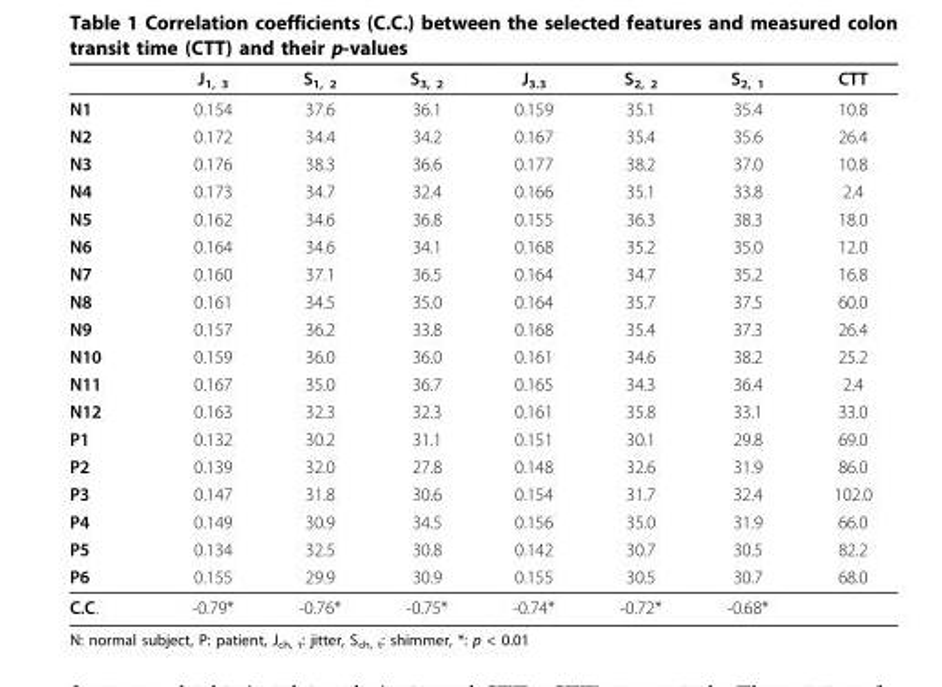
<table><thead><tr><td></td><td>J<sub>1, 3</sub></td><td>S<sub>1, 2</sub></td><td>S<sub>3, 2</sub></td><td>J<sub>3.3</sub></td><td>S<sub>2, 2</sub></td><td>S<sub>2, 1</sub></td><td>CTT</td></tr></thead><tbody><tr><td>N1</td><td>0.154</td><td>37.6</td><td>36.1</td><td>0.159</td><td>35.1</td><td>35.4</td><td>10.8</td></tr><tr><td>N2</td><td>0.172</td><td>34.4</td><td>34.2</td><td>0.167</td><td>35.4</td><td>35.6</td><td>26.4</td></tr><tr><td>N3</td><td>0.176</td><td>38.3</td><td>36.6</td><td>0.177</td><td>38.2</td><td>37.0</td><td>10.8</td></tr><tr><td>N4</td><td>0.173</td><td>34.7</td><td>32.4</td><td>0.166</td><td>35.1</td><td>33.8</td><td>2.4</td></tr><tr><td>N5</td><td>0.162</td><td>34.6</td><td>36.8</td><td>0.155</td><td>36.3</td><td>38.3</td><td>18.0</td></tr><tr><td>N6</td><td>0.164</td><td>34.6</td><td>34.1</td><td>0.168</td><td>35.2</td><td>35.0</td><td>12.0</td></tr><tr><td>N7</td><td>0.160</td><td>37.1</td><td>36.5</td><td>0.164</td><td>34.7</td><td>35.2</td><td>16.8</td></tr><tr><td>N8</td><td>0.161</td><td>34.5</td><td>35.0</td><td>0.164</td><td>35.7</td><td>37.5</td><td>60.0</td></tr><tr><td>N9</td><td>0.157</td><td>36.2</td><td>33.8</td><td>0.168</td><td>35.4</td><td>37.3</td><td>26.4</td></tr><tr><td>N10</td><td>0.159</td><td>36.0</td><td>36.0</td><td>0.161</td><td>34.6</td><td>38.2</td><td>25.2</td></tr><tr><td>N11</td><td>0.167</td><td>35.0</td><td>36.7</td><td>0.165</td><td>34.3</td><td>36.4</td><td>2.4</td></tr><tr><td>N12</td><td>0.163</td><td>32.3</td><td>32.3</td><td>0.161</td><td>35.8</td><td>33.1</td><td>33.0</td></tr><tr><td>P1</td><td>0.132</td><td>30.2</td><td>31.1</td><td>0.151</td><td>30.1</td><td>29.8</td><td>69.0</td></tr><tr><td>P2</td><td>0.139</td><td>32.0</td><td>27.8</td><td>0.148</td><td>32.6</td><td>31.9</td><td>86.0</td></tr><tr><td>P3</td><td>0.147</td><td>31.8</td><td>30.6</td><td>0.154</td><td>31.7</td><td>32.4</td><td>102.0</td></tr><tr><td>P4</td><td>0.149</td><td>30.9</td><td>34.5</td><td>0.156</td><td>35.0</td><td>31.9</td><td>66.0</td></tr><tr><td>P5</td><td>0.134</td><td>32.5</td><td>30.8</td><td>0.142</td><td>30.7</td><td>30.5</td><td>82.2</td></tr><tr><td>P6</td><td>0.155</td><td>29.9</td><td>30.9</td><td>0.155</td><td>30.5</td><td>30.7</td><td>68.0</td></tr><tr><td>C.C.</td><td>-0.79*</td><td>-0.76*</td><td>-0.75*</td><td>-0.74*</td><td>-0.72*</td><td>-0.68*</td><td></td></tr></tbody></table>